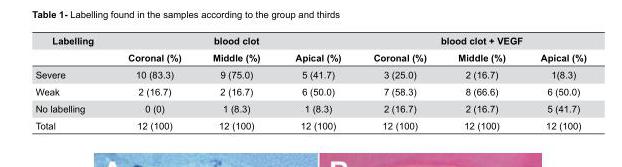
<table><thead><tr><td rowspan="2">Labelling</td><td colspan="3">blood clot</td><td colspan="3">blood clot + VEGF</td></tr><tr><td>Coronal (%)</td><td>Middle (%)</td><td>Apical (%)</td><td>Coronal (%)</td><td>Middle (%)</td><td>Apical (%)</td></tr></thead><tbody><tr><td>Severe</td><td>10 (83.3)</td><td>9 (75.0)</td><td>5 (41.7)</td><td>3 (25.0)</td><td>2 (16.7)</td><td>1(8.3)</td></tr><tr><td>Weak</td><td>2 (16.7)</td><td>2 (16.7)</td><td>6 (50.0)</td><td>7 (58.3)</td><td>8 (66.6)</td><td>6 (50.0)</td></tr><tr><td>No labelling</td><td>0 (0)</td><td>1 (8.3)</td><td>1 (8.3)</td><td>2 (16.7)</td><td>2 (16.7)</td><td>5 (41.7)</td></tr><tr><td>Total</td><td>12 (100)</td><td>12 (100)</td><td>12 (100)</td><td>12 (100)</td><td>12 (100)</td><td>12 (100)</td></tr></tbody></table>